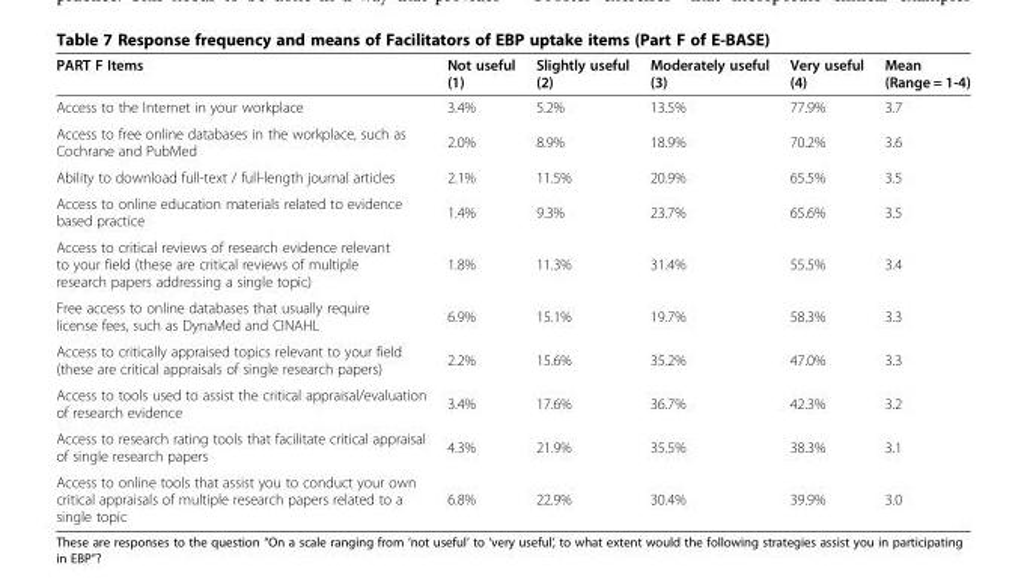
<table><thead><tr><td>PART F Items</td><td>Not useful (1)</td><td>Slightly useful (2)</td><td>Moderately useful (3)</td><td>Very useful (4)</td><td>Mean (Range = 1-4)</td></tr></thead><tbody><tr><td>Access to the Internet in your workplace</td><td>3.4%</td><td>5.2%</td><td>13.5%</td><td>77.9%</td><td>3.7</td></tr><tr><td>Access to free online databases in the workplace, such as Cochrane and PubMed</td><td>2.0%</td><td>8.9%</td><td>18.9%</td><td>70.2%</td><td>3.6</td></tr><tr><td>Ability to download full-text / full-length journal articles</td><td>2.1%</td><td>11.5%</td><td>20.9%</td><td>65.5%</td><td>3.5</td></tr><tr><td>Access to online education materials related to evidence based practice</td><td>1.4%</td><td>9.3%</td><td>23.7%</td><td>65.6%</td><td>3.5</td></tr><tr><td>Access to critical reviews of research evidence relevant to your field (these are critical reviews of multiple research papers addressing a single topic)</td><td>1.8%</td><td>11.3%</td><td>31.4%</td><td>55.5%</td><td>3.4</td></tr><tr><td>Free access to online databases that usually require license fees, such as DynaMed and CINAHL</td><td>6.9%</td><td>15.1%</td><td>19.7%</td><td>58.3%</td><td>3.3</td></tr><tr><td>Access to critically appraised topics relevant to your field (these are critical appraisals of single research papers)</td><td>2.2%</td><td>15.6%</td><td>35.2%</td><td>47.0%</td><td>3.3</td></tr><tr><td>Access to tools used to assist the critical appraisal/evaluation of research evidence</td><td>3.4%</td><td>17.6%</td><td>36.7%</td><td>42.3%</td><td>3.2</td></tr><tr><td>Access to research rating tools that facilitate critical appraisal of single research papers</td><td>4.3%</td><td>21.9%</td><td>35.5%</td><td>38.3%</td><td>3.1</td></tr><tr><td>Access to online tools that assist you to conduct your own critical appraisals of multiple research papers related to a single topic</td><td>6.8%</td><td>22.9%</td><td>30.4%</td><td>39.9%</td><td>3.0</td></tr></tbody></table>